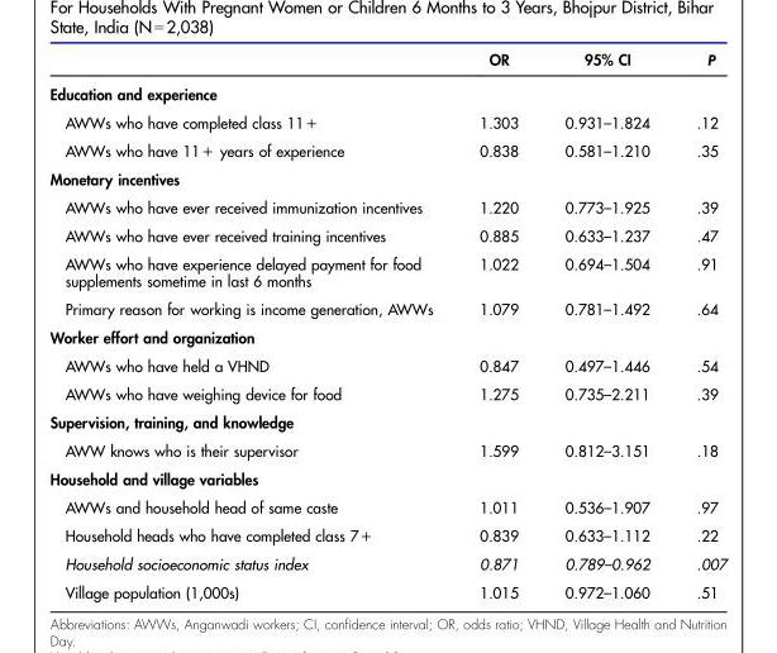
<table><thead><tr><td></td><td>OR</td><td>95% CI</td><td>P</td></tr></thead><tbody><tr><td colspan="4">Education and experience</td></tr><tr><td>AWWs who have completed class 11+</td><td>1.303</td><td>0.931–1.824</td><td>.12</td></tr><tr><td>AWWs who have 11+ years of experience</td><td>0.838</td><td>0.581–1.210</td><td>.35</td></tr><tr><td colspan="4">Monetary incentives</td></tr><tr><td>AWWs who have ever received immunization incentives</td><td>1.220</td><td>0.773–1.925</td><td>.39</td></tr><tr><td>AWWs who have ever received training incentives</td><td>0.885</td><td>0.633–1.237</td><td>.47</td></tr><tr><td>AWWs who have experience delayed payment for food supplements sometime in last 6 months</td><td>1.022</td><td>0.694–1.504</td><td>.91</td></tr><tr><td>Primary reason for working is income generation, AWWs</td><td>1.079</td><td>0.781–1.492</td><td>.64</td></tr><tr><td colspan="4">Worker effort and organization</td></tr><tr><td>AWWs who have held a VHND</td><td>0.847</td><td>0.497–1.446</td><td>.54</td></tr><tr><td>AWWs who have weighing device for food</td><td>1.275</td><td>0.735–2.211</td><td>.39</td></tr><tr><td colspan="4">Supervision, training, and knowledge</td></tr><tr><td>AWW knows who is their supervisor</td><td>1.599</td><td>0.812–3.151</td><td>.18</td></tr><tr><td colspan="4">Household and village variables</td></tr><tr><td>AWWs and household head of same caste</td><td>1.011</td><td>0.536–1.907</td><td>.97</td></tr><tr><td>Household heads who have completed class 7+</td><td>0.839</td><td>0.633–1.112</td><td>.22</td></tr><tr><td>Household socioeconomic status index</td><td>0.871</td><td>0.789–0.962</td><td>.007</td></tr><tr><td>Village population (1,000s)</td><td>1.015</td><td>0.972–1.060</td><td>.51</td></tr></tbody></table>